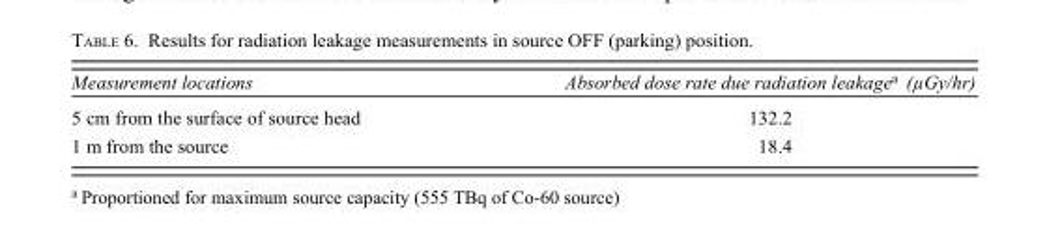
<table><thead><tr><td>Measurement locations</td><td>Absorbed dose rate due radiation leakage<sup>a</sup> (µGy/hr)</td></tr></thead><tbody><tr><td>5 cm from the surface of source head</td><td>132.2</td></tr><tr><td>1 m from the source</td><td>18.4</td></tr></tbody></table>